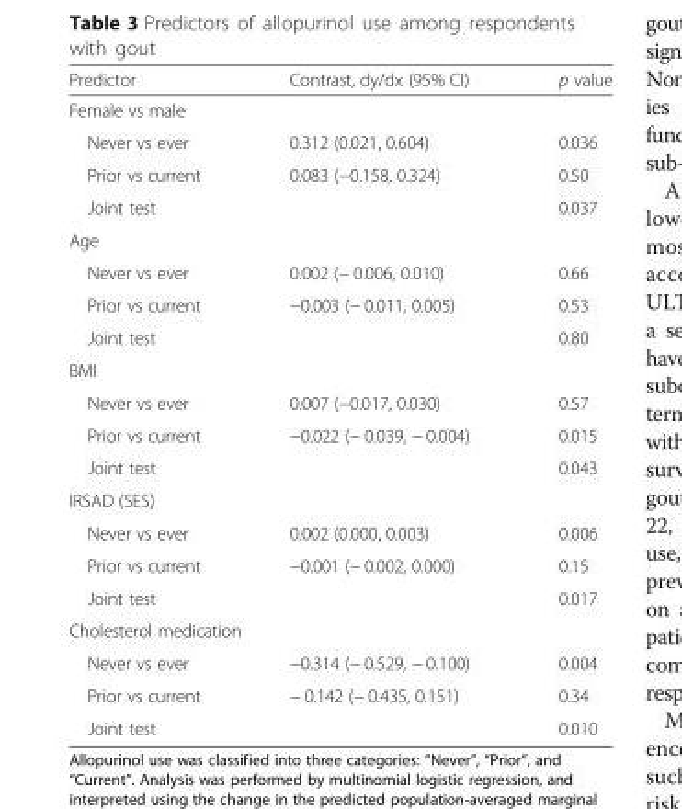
<table><thead><tr><td>Predictor</td><td>Contrast, dy/dx (95% CI)</td><td>p value</td></tr></thead><tbody><tr><td colspan="3">Female vs male</td></tr><tr><td>Never vs ever</td><td>0.312 (0.021, 0.604)</td><td>0.036</td></tr><tr><td>Prior vs current</td><td>0.083 (−0.158, 0.324)</td><td>0.50</td></tr><tr><td>Joint test</td><td></td><td>0.037</td></tr><tr><td colspan="3">Age</td></tr><tr><td>Never vs ever</td><td>0.002 (− 0.006, 0.010)</td><td>0.66</td></tr><tr><td>Prior vs current</td><td>−0.003 (− 0.011, 0.005)</td><td>0.53</td></tr><tr><td>Joint test</td><td></td><td>0.80</td></tr><tr><td colspan="3">BMI</td></tr><tr><td>Never vs ever</td><td>0.007 (−0.017, 0.030)</td><td>0.57</td></tr><tr><td>Prior vs current</td><td>−0.022 (− 0.039, − 0.004)</td><td>0.015</td></tr><tr><td>Joint test</td><td></td><td>0.043</td></tr><tr><td colspan="3">IRSAD (SES)</td></tr><tr><td>Never vs ever</td><td>0.002 (0.000, 0.003)</td><td>0.006</td></tr><tr><td>Prior vs current</td><td>−0.001 (− 0.002, 0.000)</td><td>0.15</td></tr><tr><td>Joint test</td><td></td><td>0.017</td></tr><tr><td colspan="3">Cholesterol medication</td></tr><tr><td>Never vs ever</td><td>−0.314 (− 0.529, − 0.100)</td><td>0.004</td></tr><tr><td>Prior vs current</td><td>− 0.142 (− 0.435, 0.151)</td><td>0.34</td></tr><tr><td>Joint test</td><td></td><td>0.010</td></tr></tbody></table>